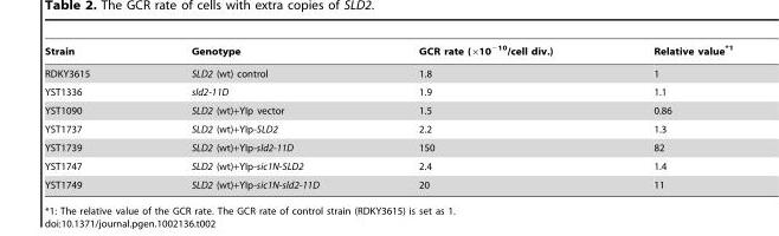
<table><thead><tr><td>Strain</td><td>Genotype</td><td>GCR rate (×10<sup>−10</sup>/cell div.)</td><td>Relative value*1</td></tr></thead><tbody><tr><td>RDKY3615</td><td>SLD2 (wt) control</td><td>1.8</td><td>1</td></tr><tr><td>YST1336</td><td>sld2-11D</td><td>1.9</td><td>1.1</td></tr><tr><td>YST1090</td><td>SLD2 (wt)+YIp vector</td><td>1.5</td><td>0.86</td></tr><tr><td>YST1737</td><td>SLD2 (wt)+YIp-SLD2</td><td>2.2</td><td>1.3</td></tr><tr><td>YST1739</td><td>SLD2 (wt)+YIp-sld2-11D</td><td>150</td><td>82</td></tr><tr><td>YST1747</td><td>SLD2 (wt)+YIp-sic1N-SLD2</td><td>2.4</td><td>1.4</td></tr><tr><td>YST1749</td><td>SLD2 (wt)+YIp-sic1N-sld2-11D</td><td>20</td><td>11</td></tr></tbody></table>